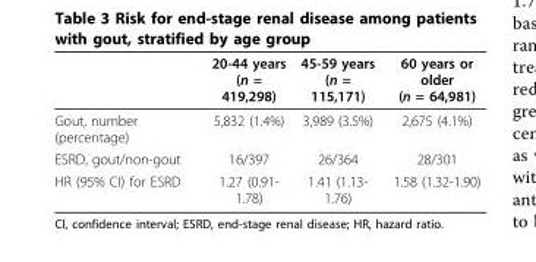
<table><thead><tr><td></td><td>20-44 years (n = 419,298)</td><td>45-59 years (n = 115,171)</td><td>60 years or older (n = 64,981)</td></tr></thead><tbody><tr><td>Gout, number (percentage)</td><td>5,832 (1.4%)</td><td>3,989 (3.5%)</td><td>2,675 (4.1%)</td></tr><tr><td>ESRD, gout/non-gout</td><td>16/397</td><td>26/364</td><td>28/301</td></tr><tr><td>HR (95% CI) for ESRD</td><td>1.27 (0.91- 1.78)</td><td>1.41 (1.13- 1.76)</td><td>1.58 (1.32-1.90)</td></tr></tbody></table>